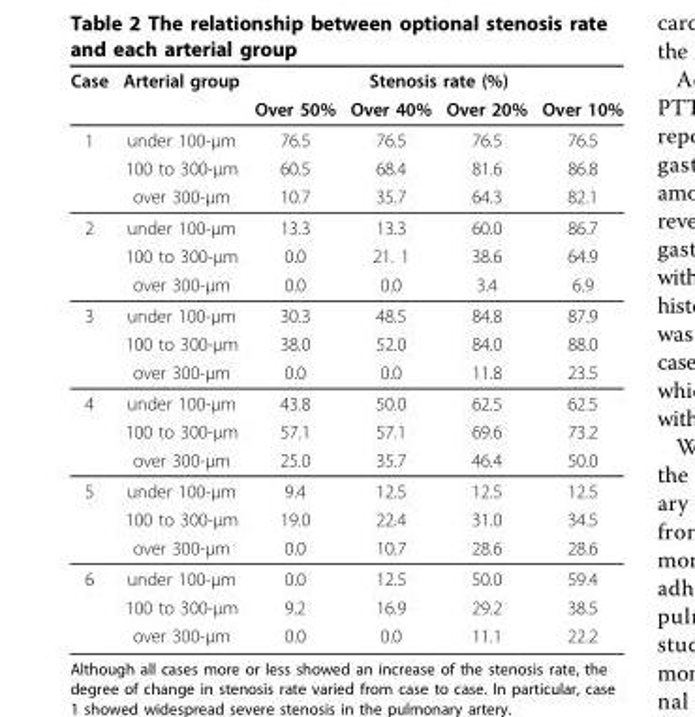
<table><thead><tr><td rowspan="2">Case</td><td rowspan="2">Arterial group</td><td colspan="4">Stenosis rate (%)</td></tr><tr><td>Over 50%</td><td>Over 40%</td><td>Over 20%</td><td>Over 10%</td></tr></thead><tbody><tr><td rowspan="3">1</td><td>under 100-μm</td><td>76.5</td><td>76.5</td><td>76.5</td><td>76.5</td></tr><tr><td>100 to 300-μm</td><td>60.5</td><td>68.4</td><td>81.6</td><td>86.8</td></tr><tr><td>over 300-μm</td><td>10.7</td><td>35.7</td><td>64.3</td><td>82.1</td></tr><tr><td rowspan="3">2</td><td>under 100-μm</td><td>13.3</td><td>13.3</td><td>60.0</td><td>86.7</td></tr><tr><td>100 to 300-μm</td><td>0.0</td><td>21. 1</td><td>38.6</td><td>64.9</td></tr><tr><td>over 300-μm</td><td>0.0</td><td>0.0</td><td>3.4</td><td>6.9</td></tr><tr><td rowspan="3">3</td><td>under 100-μm</td><td>30.3</td><td>48.5</td><td>84.8</td><td>87.9</td></tr><tr><td>100 to 300-μm</td><td>38.0</td><td>52.0</td><td>84.0</td><td>88.0</td></tr><tr><td>over 300-μm</td><td>0.0</td><td>0.0</td><td>11.8</td><td>23.5</td></tr><tr><td rowspan="3">4</td><td>under 100-μm</td><td>43.8</td><td>50.0</td><td>62.5</td><td>62.5</td></tr><tr><td>100 to 300-μm</td><td>57.1</td><td>57.1</td><td>69.6</td><td>73.2</td></tr><tr><td>over 300-μm</td><td>25.0</td><td>35.7</td><td>46.4</td><td>50.0</td></tr><tr><td rowspan="3">5</td><td>under 100-μm</td><td>9.4</td><td>12.5</td><td>12.5</td><td>12.5</td></tr><tr><td>100 to 300-μm</td><td>19.0</td><td>22.4</td><td>31.0</td><td>34.5</td></tr><tr><td>over 300-μm</td><td>0.0</td><td>10.7</td><td>28.6</td><td>28.6</td></tr><tr><td rowspan="3">6</td><td>under 100-μm</td><td>0.0</td><td>12.5</td><td>50.0</td><td>59.4</td></tr><tr><td>100 to 300-μm</td><td>9.2</td><td>16.9</td><td>29.2</td><td>38.5</td></tr><tr><td>over 300-μm</td><td>0.0</td><td>0.0</td><td>11.1</td><td>22.2</td></tr></tbody></table>